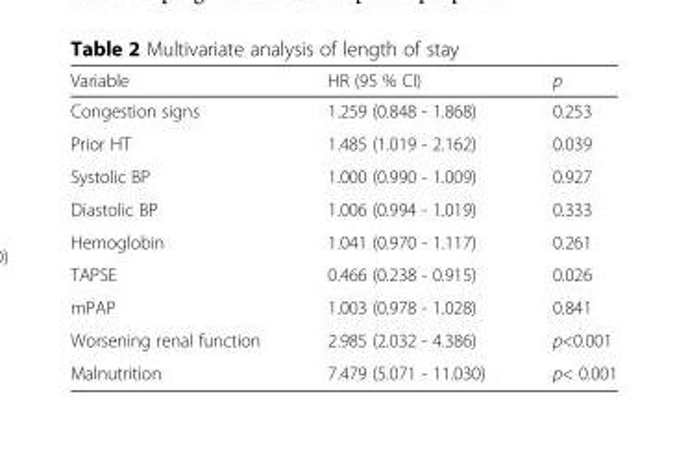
<table><thead><tr><td>Variable</td><td>HR (95 % CI)</td><td>p</td></tr></thead><tbody><tr><td>Congestion signs</td><td>1.259 (0.848 - 1.868)</td><td>0.253</td></tr><tr><td>Prior HT</td><td>1.485 (1.019 - 2.162)</td><td>0.039</td></tr><tr><td>Systolic BP</td><td>1.000 (0.990 - 1.009)</td><td>0.927</td></tr><tr><td>Diastolic BP</td><td>1.006 (0.994 - 1.019)</td><td>0.333</td></tr><tr><td>Hemoglobin</td><td>1.041 (0.970 - 1.117)</td><td>0.261</td></tr><tr><td>TAPSE</td><td>0.466 (0.238 - 0.915)</td><td>0.026</td></tr><tr><td>mPAP</td><td>1.003 (0.978 - 1.028)</td><td>0.841</td></tr><tr><td>Worsening renal function</td><td>2.985 (2.032 - 4.386)</td><td>p&lt;0.001</td></tr><tr><td>Malnutrition</td><td>7.479 (5.071 - 11.030)</td><td>p&lt; 0.001</td></tr></tbody></table>